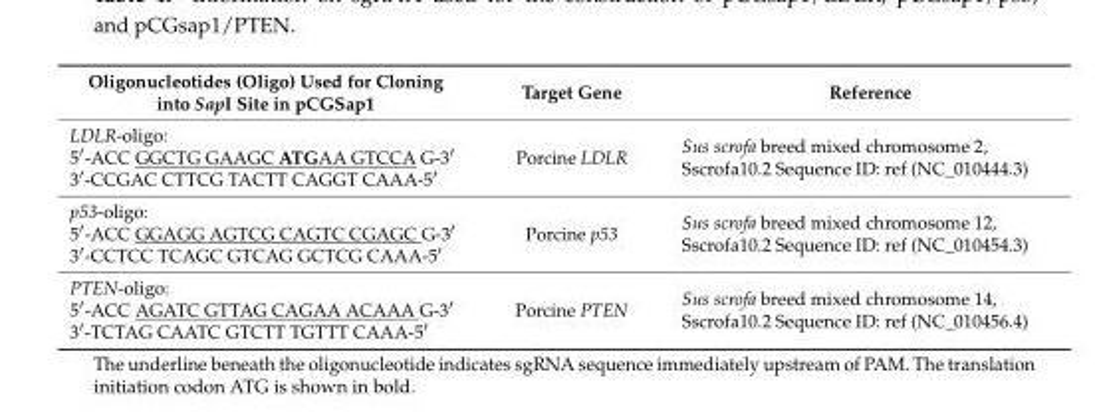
<table><thead><tr><td>Oligonucleotides (Oligo) Used for Cloning into SapI Site in pCGSap1</td><td>Target Gene</td><td>Reference</td></tr></thead><tbody><tr><td>LDLR-oligo: 5′-ACC GGCTG GAAGC ATGAA GTCCA G-3′ 3′-CCGAC CTTCG TACTT CAGGT CAAA-5′</td><td>Porcine LDLR</td><td>Sus scrofa breed mixed chromosome 2, Sscrofa10.2 Sequence ID: ref (NC_010444.3)</td></tr><tr><td>p53-oligo: 5′-ACC GGAGG AGTCG CAGTC CGAGC G-3′ 3′-CCTCC TCAGC GTCAG GCTCG CAAA-5′</td><td>Porcine p53</td><td>Sus scrofa breed mixed chromosome 12, Sscrofa10.2 Sequence ID: ref (NC_010454.3)</td></tr><tr><td>PTEN-oligo: 5′-ACC AGATC GTTAG CAGAA ACAAA G-3′ 3′-TCTAG CAATC GTCTT TGTTT CAAA-5′</td><td>Porcine PTEN</td><td>Sus scrofa breed mixed chromosome 14, Sscrofa10.2 Sequence ID: ref (NC_010456.4)</td></tr></tbody></table>